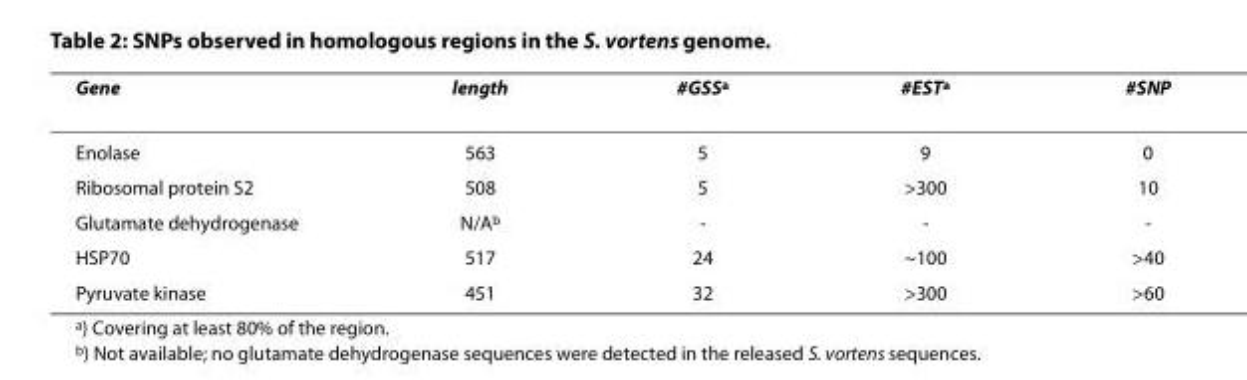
<table><thead><tr><td>Gene</td><td>length</td><td>#GSS<sup>a</sup></td><td>#EST<sup>a</sup></td><td>#SNP</td></tr></thead><tbody><tr><td>Enolase</td><td>563</td><td>5</td><td>9</td><td>0</td></tr><tr><td>Ribosomal protein S2</td><td>508</td><td>5</td><td>&gt;300</td><td>10</td></tr><tr><td>Glutamate dehydrogenase</td><td>N/A<sup>b</sup></td><td>-</td><td>-</td><td>-</td></tr><tr><td>HSP70</td><td>517</td><td>24</td><td>~100</td><td>&gt;40</td></tr><tr><td>Pyruvate kinase</td><td>451</td><td>32</td><td>&gt;300</td><td>&gt;60</td></tr></tbody></table>